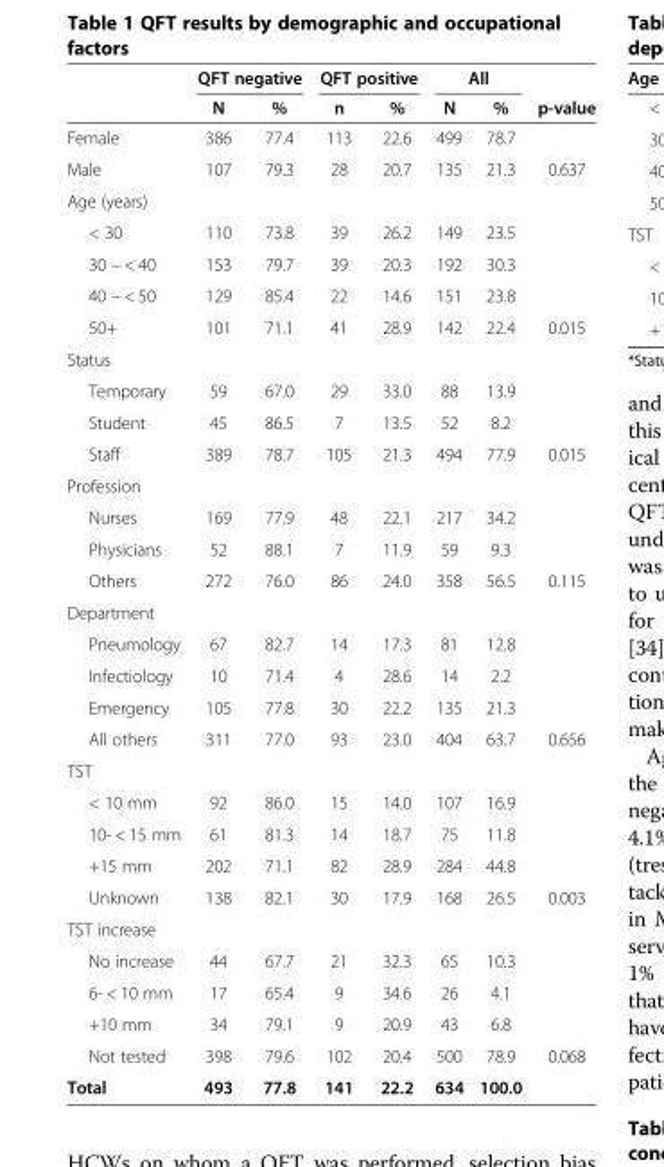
<table><thead><tr><td rowspan="2"></td><td colspan="2">QFT negative</td><td colspan="2">QFT positive</td><td colspan="2">All</td><td rowspan="2">p-value</td></tr><tr><td>N</td><td>%</td><td>n</td><td>%</td><td>N</td><td>%</td></tr></thead><tbody><tr><td>Female</td><td>386</td><td>77.4</td><td>113</td><td>22.6</td><td>499</td><td>78.7</td><td></td></tr><tr><td>Male</td><td>107</td><td>79.3</td><td>28</td><td>20.7</td><td>135</td><td>21.3</td><td>0.637</td></tr><tr><td colspan="8">Age (years)</td></tr><tr><td>&lt; 30</td><td>110</td><td>73.8</td><td>39</td><td>26.2</td><td>149</td><td>23.5</td><td></td></tr><tr><td>30 – &lt; 40</td><td>153</td><td>79.7</td><td>39</td><td>20.3</td><td>192</td><td>30.3</td><td></td></tr><tr><td>40 – &lt; 50</td><td>129</td><td>85.4</td><td>22</td><td>14.6</td><td>151</td><td>23.8</td><td></td></tr><tr><td>50+</td><td>101</td><td>71.1</td><td>41</td><td>28.9</td><td>142</td><td>22.4</td><td>0.015</td></tr><tr><td colspan="8">Status</td></tr><tr><td>Temporary</td><td>59</td><td>67.0</td><td>29</td><td>33.0</td><td>88</td><td>13.9</td><td></td></tr><tr><td>Student</td><td>45</td><td>86.5</td><td>7</td><td>13.5</td><td>52</td><td>8.2</td><td></td></tr><tr><td>Staff</td><td>389</td><td>78.7</td><td>105</td><td>21.3</td><td>494</td><td>77.9</td><td>0.015</td></tr><tr><td colspan="8">Profession</td></tr><tr><td>Nurses</td><td>169</td><td>77.9</td><td>48</td><td>22.1</td><td>217</td><td>34.2</td><td></td></tr><tr><td>Physicians</td><td>52</td><td>88.1</td><td>7</td><td>11.9</td><td>59</td><td>9.3</td><td></td></tr><tr><td>Others</td><td>272</td><td>76.0</td><td>86</td><td>24.0</td><td>358</td><td>56.5</td><td>0.115</td></tr><tr><td colspan="8">Department</td></tr><tr><td>Pneumology</td><td>67</td><td>82.7</td><td>14</td><td>17.3</td><td>81</td><td>12.8</td><td></td></tr><tr><td>Infectiology</td><td>10</td><td>71.4</td><td>4</td><td>28.6</td><td>14</td><td>2.2</td><td></td></tr><tr><td>Emergency</td><td>105</td><td>77.8</td><td>30</td><td>22.2</td><td>135</td><td>21.3</td><td></td></tr><tr><td>All others</td><td>311</td><td>77.0</td><td>93</td><td>23.0</td><td>404</td><td>63.7</td><td>0.656</td></tr><tr><td colspan="8">TST</td></tr><tr><td>&lt; 10 mm</td><td>92</td><td>86.0</td><td>15</td><td>14.0</td><td>107</td><td>16.9</td><td></td></tr><tr><td>10- &lt; 15 mm</td><td>61</td><td>81.3</td><td>14</td><td>18.7</td><td>75</td><td>11.8</td><td></td></tr><tr><td>+15 mm</td><td>202</td><td>71.1</td><td>82</td><td>28.9</td><td>284</td><td>44.8</td><td></td></tr><tr><td>Unknown</td><td>138</td><td>82.1</td><td>30</td><td>17.9</td><td>168</td><td>26.5</td><td>0.003</td></tr><tr><td colspan="8">TST increase</td></tr><tr><td>No increase</td><td>44</td><td>67.7</td><td>21</td><td>32.3</td><td>65</td><td>10.3</td><td></td></tr><tr><td>6- &lt; 10 mm</td><td>17</td><td>65.4</td><td>9</td><td>34.6</td><td>26</td><td>4.1</td><td></td></tr><tr><td>+10 mm</td><td>34</td><td>79.1</td><td>9</td><td>20.9</td><td>43</td><td>6.8</td><td></td></tr><tr><td>Not tested</td><td>398</td><td>79.6</td><td>102</td><td>20.4</td><td>500</td><td>78.9</td><td>0.068</td></tr><tr><td>Total</td><td>493</td><td>77.8</td><td>141</td><td>22.2</td><td>634</td><td>100.0</td><td></td></tr></tbody></table>